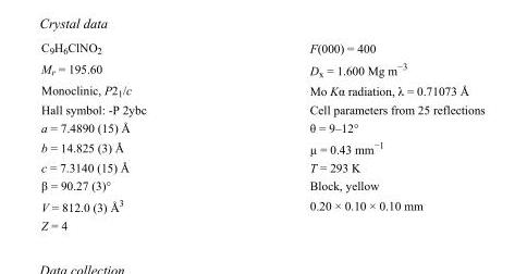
<table><tbody><tr><td>C<sub>9</sub>H<sub>6</sub>ClNO<sub>2</sub></td><td>F(000) = 400</td></tr><tr><td>M<sub>r</sub> = 195.60</td><td>D<sub>x</sub> = 1.600 Mg m<sup>−3</sup></td></tr><tr><td>Monoclinic, P2<sub>1</sub>/c</td><td>Mo Kα radiation, λ = 0.71073 Å</td></tr><tr><td>Hall symbol: -P 2ybc</td><td>Cell parameters from 25 reflections</td></tr><tr><td>a = 7.4890 (15) Å</td><td>θ = 9–12°</td></tr><tr><td>b = 14.825 (3) Å</td><td>µ = 0.43 mm<sup>−1</sup></td></tr><tr><td>c = 7.3140 (15) Å</td><td>T = 293 K</td></tr><tr><td>β = 90.27 (3)°</td><td>Block, yellow</td></tr><tr><td>V = 812.0 (3) Å<sup>3</sup></td><td>0.20 × 0.10 × 0.10 mm</td></tr><tr><td>Z = 4</td><td></td></tr></tbody></table>